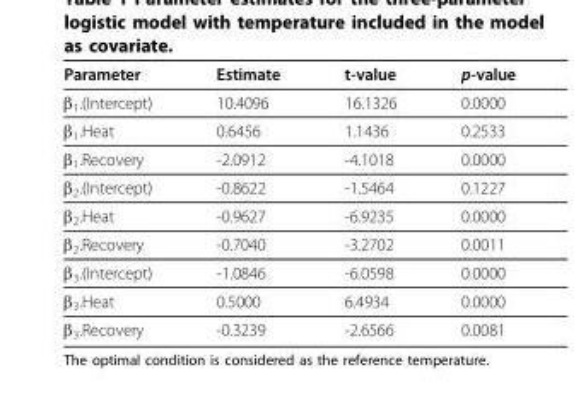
<table><thead><tr><td>Parameter</td><td>Estimate</td><td>t-value</td><td>p-value</td></tr></thead><tbody><tr><td>β<sub>1</sub>.(Intercept)</td><td>10.4096</td><td>16.1326</td><td>0.0000</td></tr><tr><td>β<sub>1</sub>.Heat</td><td>0.6456</td><td>1.1436</td><td>0.2533</td></tr><tr><td>β<sub>1</sub>.Recovery</td><td>-2.0912</td><td>-4.1018</td><td>0.0000</td></tr><tr><td>β<sub>2</sub>.(Intercept)</td><td>-0.8622</td><td>-1.5464</td><td>0.1227</td></tr><tr><td>β<sub>2</sub>.Heat</td><td>-0.9627</td><td>-6.9235</td><td>0.0000</td></tr><tr><td>β<sub>2</sub>.Recovery</td><td>-0.7040</td><td>-3.2702</td><td>0.0011</td></tr><tr><td>β<sub>3</sub>.(Intercept)</td><td>-1.0846</td><td>-6.0598</td><td>0.0000</td></tr><tr><td>β<sub>3</sub>.Heat</td><td>0.5000</td><td>6.4934</td><td>0.0000</td></tr><tr><td>β<sub>3</sub>.Recovery</td><td>-0.3239</td><td>-2.6566</td><td>0.0081</td></tr></tbody></table>